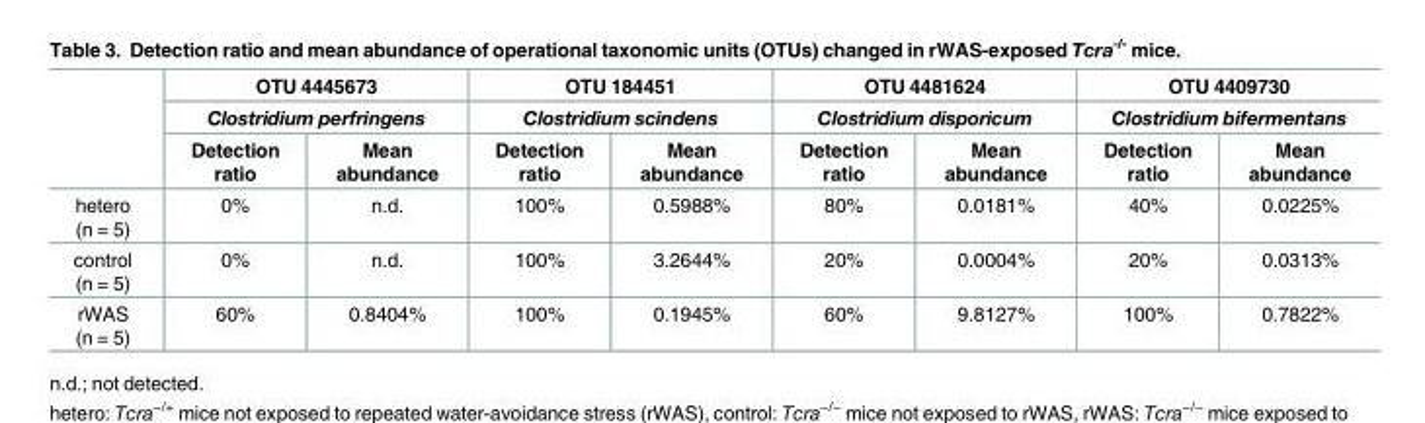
<table><thead><tr><td rowspan="3"></td><td rowspan="2" colspan="2">OTU 4445673 Clostridium perfringens</td><td rowspan="2" colspan="2">OTU 184451 Clostridium scindens</td><td rowspan="2" colspan="2">OTU 4481624 Clostridium disporicum</td><td rowspan="2" colspan="2">OTU 4409730 Clostridium bifermentans</td></tr><tr></tr><tr><td>Detection ratio</td><td>Mean abundance</td><td>Detection ratio</td><td>Mean abundance</td><td>Detection ratio</td><td>Mean abundance</td><td>Detection ratio</td><td>Mean abundance</td></tr></thead><tbody><tr><td>hetero (n = 5)</td><td>0%</td><td>n.d.</td><td>100%</td><td>0.5988%</td><td>80%</td><td>0.0181%</td><td>40%</td><td>0.0225%</td></tr><tr><td>control (n = 5)</td><td>0%</td><td>n.d.</td><td>100%</td><td>3.2644%</td><td>20%</td><td>0.0004%</td><td>20%</td><td>0.0313%</td></tr><tr><td>rWAS (n = 5)</td><td>60%</td><td>0.8404%</td><td>100%</td><td>0.1945%</td><td>60%</td><td>9.8127%</td><td>100%</td><td>0.7822%</td></tr></tbody></table>